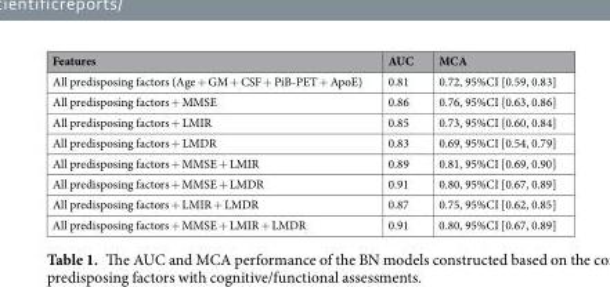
<table><thead><tr><td>Features</td><td>AUC</td><td>MCA</td></tr></thead><tbody><tr><td>All predisposing factors (Age + GM + CSF + PiB-PET + ApoE)</td><td>0.81</td><td>0.72, 95%CI [0.59, 0.83]</td></tr><tr><td>All predisposing factors + MMSE</td><td>0.86</td><td>0.76, 95%CI [0.63, 0.86]</td></tr><tr><td>All predisposing factors + LMIR</td><td>0.85</td><td>0.73, 95%CI [0.60, 0.84]</td></tr><tr><td>All predisposing factors + LMDR</td><td>0.83</td><td>0.69, 95%CI [0.54, 0.79]</td></tr><tr><td>All predisposing factors + MMSE + LMIR</td><td>0.89</td><td>0.81, 95%CI [0.69, 0.90]</td></tr><tr><td>All predisposing factors + MMSE + LMDR</td><td>0.91</td><td>0.80, 95%CI [0.67, 0.89]</td></tr><tr><td>All predisposing factors + LMIR + LMDR</td><td>0.87</td><td>0.75, 95%CI [0.62, 0.85]</td></tr><tr><td>All predisposing factors + MMSE + LMIR + LMDR</td><td>0.91</td><td>0.80, 95%CI [0.67, 0.89]</td></tr></tbody></table>